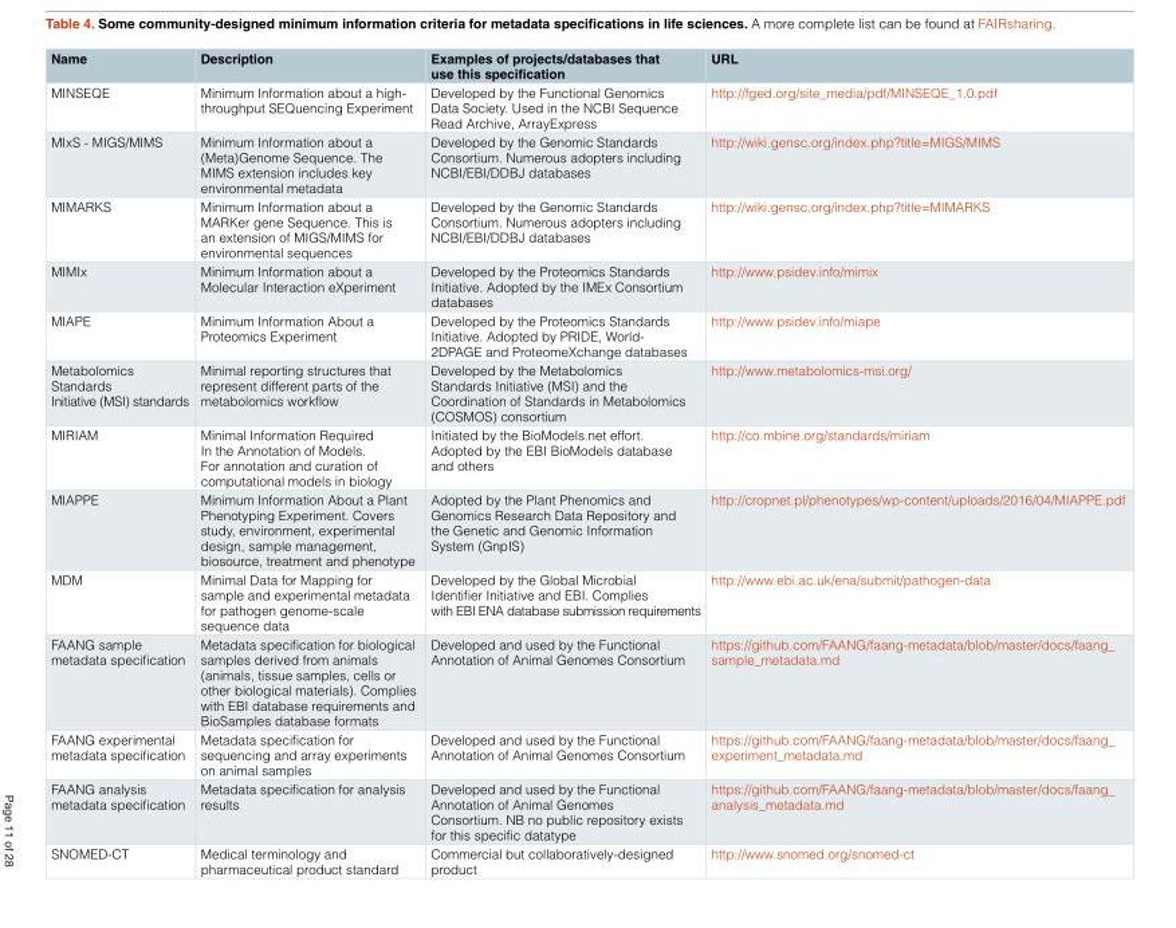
<table><thead><tr><td>Name</td><td>Description</td><td>Examples of projects/databases that use this specification</td><td>URL</td></tr></thead><tbody><tr><td>MINSEQE</td><td>Minimum Information about a high- throughput SEQuencing Experiment</td><td>Developed by the Functional Genomics Data Society. Used in the NCBI Sequence Read Archive, ArrayExpress</td><td>http://fged.org/site_media/pdf/MINSEQE_1.0.pdf</td></tr><tr><td>MIxS - MIGS/MIMS</td><td>Minimum Information about a (Meta)Genome Sequence. The MIMS extension includes key environmental metadata</td><td>Developed by the Genomic Standards Consortium. Numerous adopters including NCBI/EBI/DDBJ databases</td><td>http://wiki.gensc.org/index.php?title=MIGS/MIMS</td></tr><tr><td>MIMARKS</td><td>Minimum Information about a MARKer gene Sequence. This is an extension of MIGS/MIMS for environmental sequences</td><td>Developed by the Genomic Standards Consortium. Numerous adopters including NCBI/EBI/DDBJ databases</td><td>http://wiki.gensc.org/index.php?title=MIMARKS</td></tr><tr><td>MIMIx</td><td>Minimum Information about a Molecular Interaction eXperiment</td><td>Developed by the Proteomics Standards Initiative. Adopted by the IMEx Consortium databases</td><td>http://www.psidev.info/mimix</td></tr><tr><td>MIAPE</td><td>Minimum Information About a Proteomics Experiment</td><td>Developed by the Proteomics Standards Initiative. Adopted by PRIDE, World- 2DPAGE and ProteomeXchange databases</td><td>http://www.psidev.info/miape</td></tr><tr><td>Metabolomics Standards Initiative (MSI) standards</td><td>Minimal reporting structures that represent different parts of the metabolomics workflow</td><td>Developed by the Metabolomics Standards Initiative (MSI) and the Coordination of Standards in Metabolomics (COSMOS) consortium</td><td>http://www.metabolomics-msi.org/</td></tr><tr><td>MIRIAM</td><td>Minimal Information Required In the Annotation of Models. For annotation and curation of computational models in biology</td><td>Initiated by the BioModels.net effort. Adopted by the EBI BioModels database and others</td><td>http://co.mbine.org/standards/miriam</td></tr><tr><td>MIAPPE</td><td>Minimum Information About a Plant Phenotyping Experiment. Covers study, environment, experimental design, sample management, biosource, treatment and phenotype</td><td>Adopted by the Plant Phenomics and Genomics Research Data Repository and the Genetic and Genomic Information System (GnpIS)</td><td>http://cropnet.pl/phenotypes/wp-content/uploads/2016/04/MIAPPE.pdf</td></tr><tr><td>MDM</td><td>Minimal Data for Mapping for sample and experimental metadata for pathogen genome-scale sequence data</td><td>Developed by the Global Microbial Identifier Initiative and EBI. Complies with EBI ENA database submission requirements</td><td>http://www.ebi.ac.uk/ena/submit/pathogen-data</td></tr><tr><td>FAANG sample metadata specification</td><td>Metadata specification for biological samples derived from animals (animals, tissue samples, cells or other biological materials). Complies with EBI database requirements and BioSamples database formats</td><td>Developed and used by the Functional Annotation of Animal Genomes Consortium</td><td>https://github.com/FAANG/faang-metadata/blob/master/docs/faang_ sample_metadata.md</td></tr><tr><td>FAANG experimental metadata specification</td><td>Metadata specification for sequencing and array experiments on animal samples</td><td>Developed and used by the Functional Annotation of Animal Genomes Consortium</td><td>https://github.com/FAANG/faang-metadata/blob/master/docs/faang_ experiment_metadata.md</td></tr><tr><td>FAANG analysis metadata specification</td><td>Metadata specification for analysis results</td><td>Developed and used by the Functional Annotation of Animal Genomes Consortium. NB no public repository exists for this specific datatype</td><td>https://github.com/FAANG/faang-metadata/blob/master/docs/faang_ analysis_metadata.md</td></tr><tr><td>SNOMED-CT</td><td>Medical terminology and pharmaceutical product standard</td><td>Commercial but collaboratively-designed product</td><td>http://www.snomed.org/snomed-ct</td></tr></tbody></table>